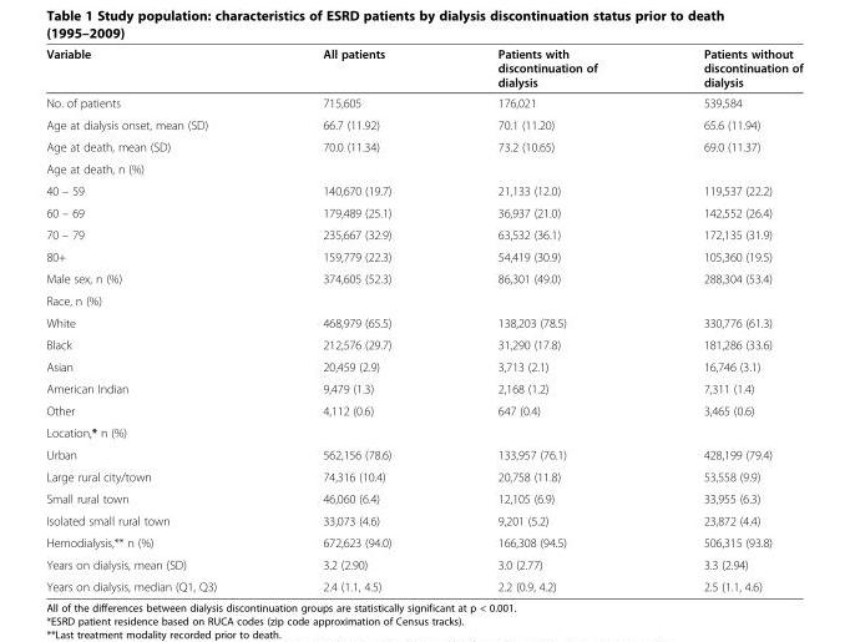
<table><thead><tr><td>Variable</td><td>All patients</td><td>Patients with discontinuation of dialysis</td><td>Patients without discontinuation of dialysis</td></tr></thead><tbody><tr><td>No. of patients</td><td>715,605</td><td>176,021</td><td>539,584</td></tr><tr><td>Age at dialysis onset, mean (SD)</td><td>66.7 (11.92)</td><td>70.1 (11.20)</td><td>65.6 (11.94)</td></tr><tr><td>Age at death, mean (SD)</td><td>70.0 (11.34)</td><td>73.2 (10.65)</td><td>69.0 (11.37)</td></tr><tr><td colspan="4">Age at death, n (%)</td></tr><tr><td>40 – 59</td><td>140,670 (19.7)</td><td>21,133 (12.0)</td><td>119,537 (22.2)</td></tr><tr><td>60 – 69</td><td>179,489 (25.1)</td><td>36,937 (21.0)</td><td>142,552 (26.4)</td></tr><tr><td>70 – 79</td><td>235,667 (32.9)</td><td>63,532 (36.1)</td><td>172,135 (31.9)</td></tr><tr><td>80+</td><td>159,779 (22.3)</td><td>54,419 (30.9)</td><td>105,360 (19.5)</td></tr><tr><td>Male sex, n (%)</td><td>374,605 (52.3)</td><td>86,301 (49.0)</td><td>288,304 (53.4)</td></tr><tr><td colspan="4">Race, n (%)</td></tr><tr><td>White</td><td>468,979 (65.5)</td><td>138,203 (78.5)</td><td>330,776 (61.3)</td></tr><tr><td>Black</td><td>212,576 (29.7)</td><td>31,290 (17.8)</td><td>181,286 (33.6)</td></tr><tr><td>Asian</td><td>20,459 (2.9)</td><td>3,713 (2.1)</td><td>16,746 (3.1)</td></tr><tr><td>American Indian</td><td>9,479 (1.3)</td><td>2,168 (1.2)</td><td>7,311 (1.4)</td></tr><tr><td>Other</td><td>4,112 (0.6)</td><td>647 (0.4)</td><td>3,465 (0.6)</td></tr><tr><td colspan="4">Location,* n (%)</td></tr><tr><td>Urban</td><td>562,156 (78.6)</td><td>133,957 (76.1)</td><td>428,199 (79.4)</td></tr><tr><td>Large rural city/town</td><td>74,316 (10.4)</td><td>20,758 (11.8)</td><td>53,558 (9.9)</td></tr><tr><td>Small rural town</td><td>46,060 (6.4)</td><td>12,105 (6.9)</td><td>33,955 (6.3)</td></tr><tr><td>Isolated small rural town</td><td>33,073 (4.6)</td><td>9,201 (5.2)</td><td>23,872 (4.4)</td></tr><tr><td>Hemodialysis,** n (%)</td><td>672,623 (94.0)</td><td>166,308 (94.5)</td><td>506,315 (93.8)</td></tr><tr><td>Years on dialysis, mean (SD)</td><td>3.2 (2.90)</td><td>3.0 (2.77)</td><td>3.3 (2.94)</td></tr><tr><td>Years on dialysis, median (Q1, Q3)</td><td>2.4 (1.1, 4.5)</td><td>2.2 (0.9, 4.2)</td><td>2.5 (1.1, 4.6)</td></tr></tbody></table>